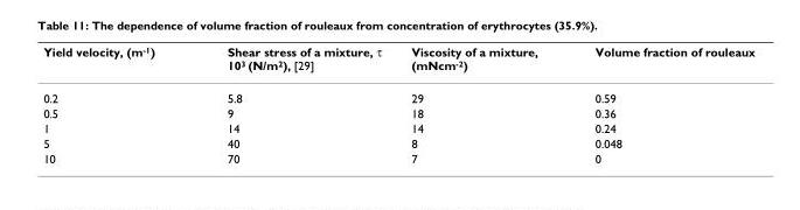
<table><thead><tr><td>Yield velocity, (m<sup>-1</sup>)</td><td>Shear stress of a mixture, τ 10<sup>3</sup> (N/m<sup>2</sup>), [29]</td><td>Viscosity of a mixture, (mNcm<sup>-2</sup>)</td><td>Volume fraction of rouleaux</td></tr></thead><tbody><tr><td>0.2</td><td>5.8</td><td>29</td><td>0.59</td></tr><tr><td>0.5</td><td>9</td><td>18</td><td>0.36</td></tr><tr><td>1</td><td>14</td><td>14</td><td>0.24</td></tr><tr><td>5</td><td>40</td><td>8</td><td>0.048</td></tr><tr><td>10</td><td>70</td><td>7</td><td>0</td></tr></tbody></table>